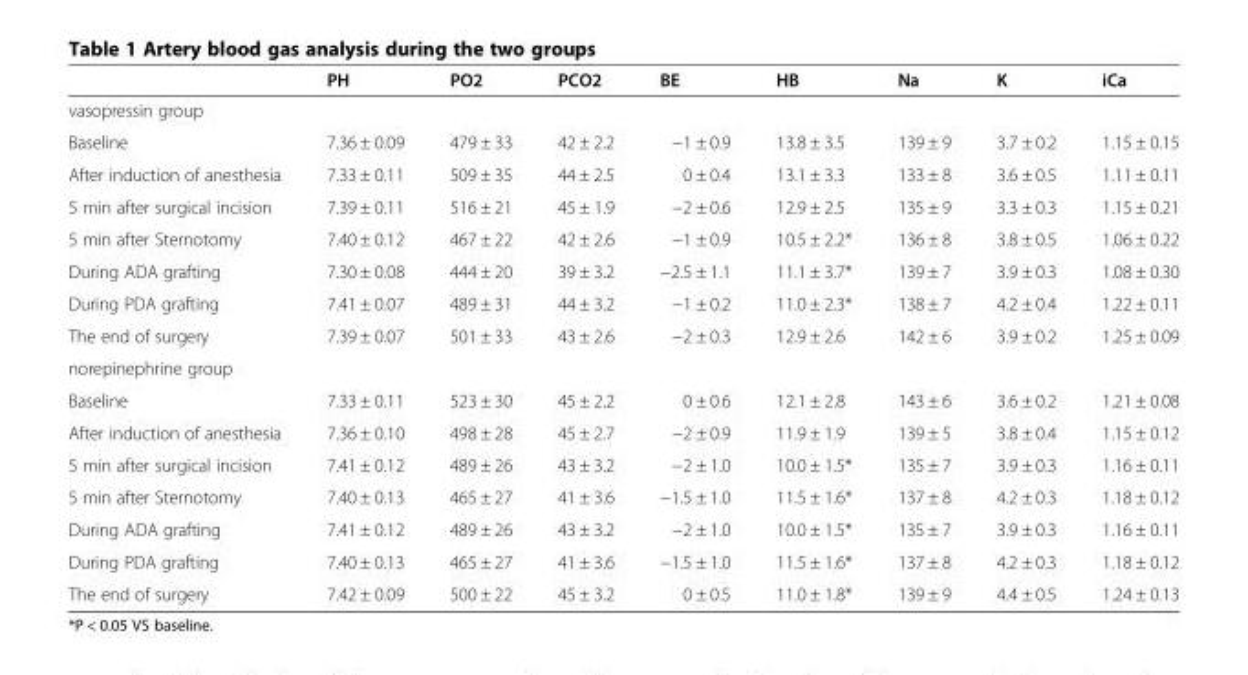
<table><thead><tr><td></td><td>PH</td><td>PO2</td><td>PCO2</td><td>BE</td><td>HB</td><td>Na</td><td>K</td><td>iCa</td></tr></thead><tbody><tr><td colspan="9">vasopressin group</td></tr><tr><td>Baseline</td><td>7.36 ± 0.09</td><td>479 ± 33</td><td>42 ± 2.2</td><td>−1 ± 0.9</td><td>13.8 ± 3.5</td><td>139 ± 9</td><td>3.7 ± 0.2</td><td>1.15 ± 0.15</td></tr><tr><td>After induction of anesthesia</td><td>7.33 ± 0.11</td><td>509 ± 35</td><td>44 ± 2.5</td><td>0 ± 0.4</td><td>13.1 ± 3.3</td><td>133 ± 8</td><td>3.6 ± 0.5</td><td>1.11 ± 0.11</td></tr><tr><td>5 min after surgical incision</td><td>7.39 ± 0.11</td><td>516 ± 21</td><td>45 ± 1.9</td><td>−2 ± 0.6</td><td>12.9 ± 2.5</td><td>135 ± 9</td><td>3.3 ± 0.3</td><td>1.15 ± 0.21</td></tr><tr><td>5 min after Sternotomy</td><td>7.40 ± 0.12</td><td>467 ± 22</td><td>42 ± 2.6</td><td>−1 ± 0.9</td><td>10.5 ± 2.2*</td><td>136 ± 8</td><td>3.8 ± 0.5</td><td>1.06 ± 0.22</td></tr><tr><td>During ADA grafting</td><td>7.30 ± 0.08</td><td>444 ± 20</td><td>39 ± 3.2</td><td>−2.5 ± 1.1</td><td>11.1 ± 3.7*</td><td>139 ± 7</td><td>3.9 ± 0.3</td><td>1.08 ± 0.30</td></tr><tr><td>During PDA grafting</td><td>7.41 ± 0.07</td><td>489 ± 31</td><td>44 ± 3.2</td><td>−1 ± 0.2</td><td>11.0 ± 2.3*</td><td>138 ± 7</td><td>4.2 ± 0.4</td><td>1.22 ± 0.11</td></tr><tr><td>The end of surgery</td><td>7.39 ± 0.07</td><td>501 ± 33</td><td>43 ± 2.6</td><td>−2 ± 0.3</td><td>12.9 ± 2.6</td><td>142 ± 6</td><td>3.9 ± 0.2</td><td>1.25 ± 0.09</td></tr><tr><td colspan="9">norepinephrine group</td></tr><tr><td>Baseline</td><td>7.33 ± 0.11</td><td>523 ± 30</td><td>45 ± 2.2</td><td>0 ± 0.6</td><td>12.1 ± 2.8</td><td>143 ± 6</td><td>3.6 ± 0.2</td><td>1.21 ± 0.08</td></tr><tr><td>After induction of anesthesia</td><td>7.36 ± 0.10</td><td>498 ± 28</td><td>45 ± 2.7</td><td>−2 ± 0.9</td><td>11.9 ± 1.9</td><td>139 ± 5</td><td>3.8 ± 0.4</td><td>1.15 ± 0.12</td></tr><tr><td>5 min after surgical incision</td><td>7.41 ± 0.12</td><td>489 ± 26</td><td>43 ± 3.2</td><td>−2 ± 1.0</td><td>10.0 ± 1.5*</td><td>135 ± 7</td><td>3.9 ± 0.3</td><td>1.16 ± 0.11</td></tr><tr><td>5 min after Sternotomy</td><td>7.40 ± 0.13</td><td>465 ± 27</td><td>41 ± 3.6</td><td>−1.5 ± 1.0</td><td>11.5 ± 1.6*</td><td>137 ± 8</td><td>4.2 ± 0.3</td><td>1.18 ± 0.12</td></tr><tr><td>During ADA grafting</td><td>7.41 ± 0.12</td><td>489 ± 26</td><td>43 ± 3.2</td><td>−2 ± 1.0</td><td>10.0 ± 1.5*</td><td>135 ± 7</td><td>3.9 ± 0.3</td><td>1.16 ± 0.11</td></tr><tr><td>During PDA grafting</td><td>7.40 ± 0.13</td><td>465 ± 27</td><td>41 ± 3.6</td><td>−1.5 ± 1.0</td><td>11.5 ± 1.6*</td><td>137 ± 8</td><td>4.2 ± 0.3</td><td>1.18 ± 0.12</td></tr><tr><td>The end of surgery</td><td>7.42 ± 0.09</td><td>500 ± 22</td><td>45 ± 3.2</td><td>0 ± 0.5</td><td>11.0 ± 1.8*</td><td>139 ± 9</td><td>4.4 ± 0.5</td><td>1.24 ± 0.13</td></tr></tbody></table>